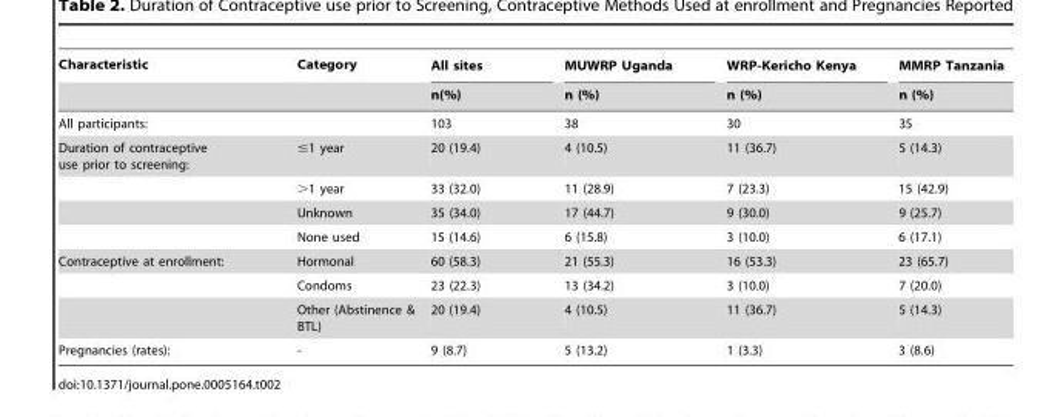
<table><thead><tr><td rowspan="2">Characteristic</td><td rowspan="2">Category</td><td rowspan="2">All sites n(%)</td><td rowspan="2">MUWRP Uganda n (%)</td><td rowspan="2">WRP-Kericho Kenya n (%)</td><td rowspan="2">MMRP Tanzania n (%)</td></tr><tr></tr></thead><tbody><tr><td>All participants:</td><td></td><td>103</td><td>38</td><td>30</td><td>35</td></tr><tr><td rowspan="4">Duration of contraceptive use prior to screening:</td><td>≤1 year</td><td>20 (19.4)</td><td>4 (10.5)</td><td>11 (36.7)</td><td>5 (14.3)</td></tr><tr><td>&gt;1 year</td><td>33 (32.0)</td><td>11 (28.9)</td><td>7 (23.3)</td><td>15 (42.9)</td></tr><tr><td>Unknown</td><td>35 (34.0)</td><td>17 (44.7)</td><td>9 (30.0)</td><td>9 (25.7)</td></tr><tr><td>None used</td><td>15 (14.6)</td><td>6 (15.8)</td><td>3 (10.0)</td><td>6 (17.1)</td></tr><tr><td rowspan="3">Contraceptive at enrollment:</td><td>Hormonal</td><td>60 (58.3)</td><td>21 (55.3)</td><td>16 (53.3)</td><td>23 (65.7)</td></tr><tr><td>Condoms</td><td>23 (22.3)</td><td>13 (34.2)</td><td>3 (10.0)</td><td>7 (20.0)</td></tr><tr><td>Other (Abstinence &amp; BTL)</td><td>20 (19.4)</td><td>4 (10.5)</td><td>11 (36.7)</td><td>5 (14.3)</td></tr><tr><td>Pregnancies (rates):</td><td>-</td><td>9 (8.7)</td><td>5 (13.2)</td><td>1 (3.3)</td><td>3 (8.6)</td></tr></tbody></table>